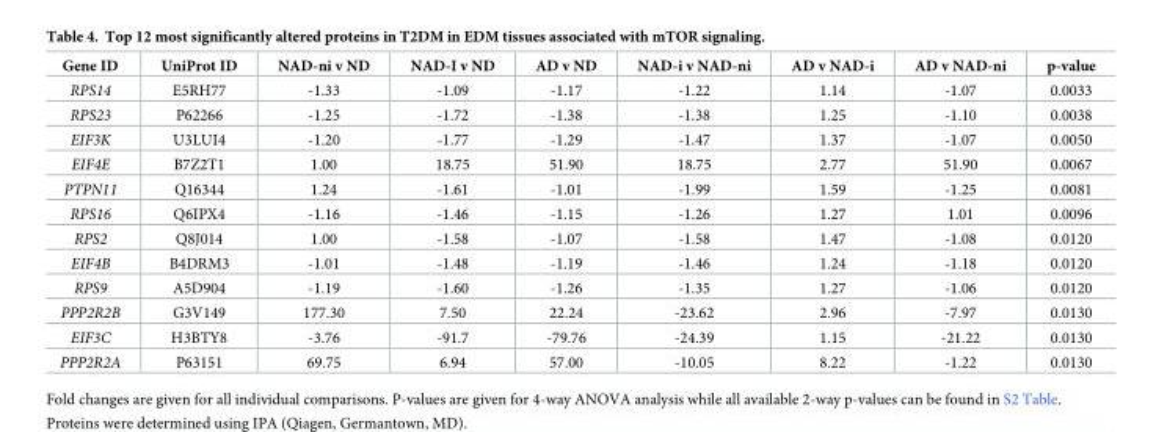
<table><thead><tr><td>Gene ID</td><td>UniProt ID</td><td>NAD-ni v ND</td><td>NAD-I v ND</td><td>AD v ND</td><td>NAD-i v NAD-ni</td><td>AD v NAD-i</td><td>AD v NAD-ni</td><td>p-value</td></tr></thead><tbody><tr><td>RPS14</td><td>E5RH77</td><td>-1.33</td><td>-1.09</td><td>-1.17</td><td>-1.22</td><td>1.14</td><td>-1.07</td><td>0.0033</td></tr><tr><td>RPS23</td><td>P62266</td><td>-1.25</td><td>-1.72</td><td>-1.38</td><td>-1.38</td><td>1.25</td><td>-1.10</td><td>0.0038</td></tr><tr><td>EIF3K</td><td>U3LUI4</td><td>-1.20</td><td>-1.77</td><td>-1.29</td><td>-1.47</td><td>1.37</td><td>-1.07</td><td>0.0050</td></tr><tr><td>EIF4E</td><td>B7Z2T1</td><td>1.00</td><td>18.75</td><td>51.90</td><td>18.75</td><td>2.77</td><td>51.90</td><td>0.0067</td></tr><tr><td>PTPN11</td><td>Q16344</td><td>1.24</td><td>-1.61</td><td>-1.01</td><td>-1.99</td><td>1.59</td><td>-1.25</td><td>0.0081</td></tr><tr><td>RPS16</td><td>Q6IPX4</td><td>-1.16</td><td>-1.46</td><td>-1.15</td><td>-1.26</td><td>1.27</td><td>1.01</td><td>0.0096</td></tr><tr><td>RPS2</td><td>Q8J014</td><td>1.00</td><td>-1.58</td><td>-1.07</td><td>-1.58</td><td>1.47</td><td>-1.08</td><td>0.0120</td></tr><tr><td>EIF4B</td><td>B4DRM3</td><td>-1.01</td><td>-1.48</td><td>-1.19</td><td>-1.46</td><td>1.24</td><td>-1.18</td><td>0.0120</td></tr><tr><td>RPS9</td><td>A5D904</td><td>-1.19</td><td>-1.60</td><td>-1.26</td><td>-1.35</td><td>1.27</td><td>-1.06</td><td>0.0120</td></tr><tr><td>PPP2R2B</td><td>G3V149</td><td>177.30</td><td>7.50</td><td>22.24</td><td>-23.62</td><td>2.96</td><td>-7.97</td><td>0.0130</td></tr><tr><td>EIF3C</td><td>H3BTY8</td><td>-3.76</td><td>-91.7</td><td>-79.76</td><td>-24.39</td><td>1.15</td><td>-21.22</td><td>0.0130</td></tr><tr><td>PPP2R2A</td><td>P63151</td><td>69.75</td><td>6.94</td><td>57.00</td><td>-10.05</td><td>8.22</td><td>-1.22</td><td>0.0130</td></tr></tbody></table>